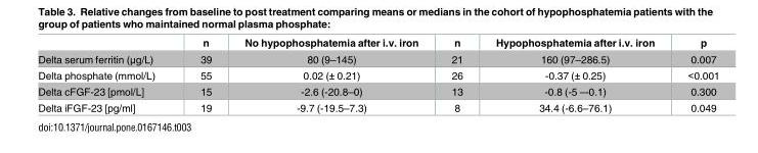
<table><thead><tr><td></td><td>n</td><td>No hypophosphatemia after i.v. iron</td><td>n</td><td>Hypophosphatemia after i.v. iron</td><td>p</td></tr></thead><tbody><tr><td>Delta serum ferritin (μg/L)</td><td>39</td><td>80 (9–145)</td><td>21</td><td>160 (97–286.5)</td><td>0.007</td></tr><tr><td>Delta phosphate (mmol/L)</td><td>55</td><td>0.02 (± 0.21)</td><td>26</td><td>-0.37 (± 0.25)</td><td>&lt;0.001</td></tr><tr><td>Delta cFGF-23 [pmol/L]</td><td>15</td><td>-2.6 (-20.8–0)</td><td>13</td><td>-0.8 (-5 –-0.1)</td><td>0.300</td></tr><tr><td>Delta iFGF-23 [pg/ml]</td><td>19</td><td>-9.7 (-19.5–7.3)</td><td>8</td><td>34.4 (-6.6–76.1)</td><td>0.049</td></tr></tbody></table>